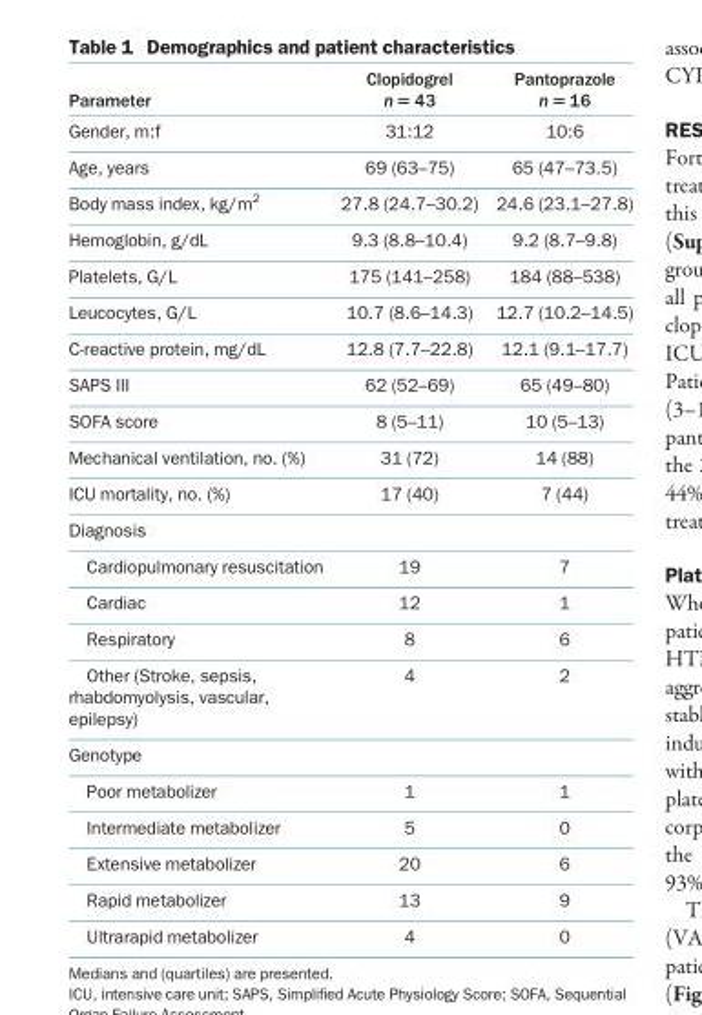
<table><thead><tr><td>Parameter</td><td>Clopidogrel n = 43</td><td>Pantoprazole n = 16</td></tr></thead><tbody><tr><td>Gender, m:f</td><td>31:12</td><td>10:6</td></tr><tr><td>Age, years</td><td>69 (63–75)</td><td>65 (47–73.5)</td></tr><tr><td>Body mass index, kg/m<sup>2</sup></td><td>27.8 (24.7–30.2)</td><td>24.6 (23.1–27.8)</td></tr><tr><td>Hemoglobin, g/dL</td><td>9.3 (8.8–10.4)</td><td>9.2 (8.7–9.8)</td></tr><tr><td>Platelets, G/L</td><td>175 (141–258)</td><td>184 (88–538)</td></tr><tr><td>Leucocytes, G/L</td><td>10.7 (8.6–14.3)</td><td>12.7 (10.2–14.5)</td></tr><tr><td>C-reactive protein, mg/dL</td><td>12.8 (7.7–22.8)</td><td>12.1 (9.1–17.7)</td></tr><tr><td>SAPS III</td><td>62 (52–69)</td><td>65 (49–80)</td></tr><tr><td>SOFA score</td><td>8 (5–11)</td><td>10 (5–13)</td></tr><tr><td>Mechanical ventilation, no. (%)</td><td>31 (72)</td><td>14 (88)</td></tr><tr><td>ICU mortality, no. (%)</td><td>17 (40)</td><td>7 (44)</td></tr><tr><td colspan="3">Diagnosis</td></tr><tr><td>Cardiopulmonary resuscitation</td><td>19</td><td>7</td></tr><tr><td>Cardiac</td><td>12</td><td>1</td></tr><tr><td>Respiratory</td><td>8</td><td>6</td></tr><tr><td>Other (Stroke, sepsis, rhabdomyolysis, vascular, epilepsy)</td><td>4</td><td>2</td></tr><tr><td colspan="3">Genotype</td></tr><tr><td>Poor metabolizer</td><td>1</td><td>1</td></tr><tr><td>Intermediate metabolizer</td><td>5</td><td>0</td></tr><tr><td>Extensive metabolizer</td><td>20</td><td>6</td></tr><tr><td>Rapid metabolizer</td><td>13</td><td>9</td></tr><tr><td>Ultrarapid metabolizer</td><td>4</td><td>0</td></tr></tbody></table>